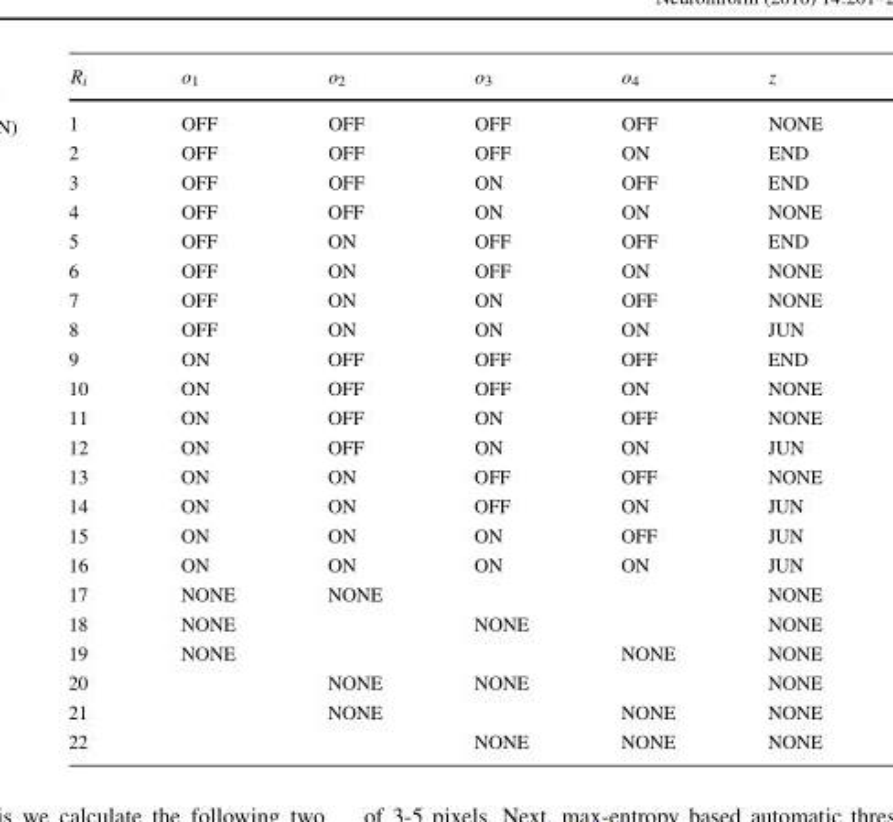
<table><thead><tr><td>R<sub>i</sub></td><td>o<sub>1</sub></td><td>o<sub>2</sub></td><td>o<sub>3</sub></td><td>o<sub>4</sub></td><td>z</td></tr></thead><tbody><tr><td>1</td><td>OFF</td><td>OFF</td><td>OFF</td><td>OFF</td><td>NONE</td></tr><tr><td>2</td><td>OFF</td><td>OFF</td><td>OFF</td><td>ON</td><td>END</td></tr><tr><td>3</td><td>OFF</td><td>OFF</td><td>ON</td><td>OFF</td><td>END</td></tr><tr><td>4</td><td>OFF</td><td>OFF</td><td>ON</td><td>ON</td><td>NONE</td></tr><tr><td>5</td><td>OFF</td><td>ON</td><td>OFF</td><td>OFF</td><td>END</td></tr><tr><td>6</td><td>OFF</td><td>ON</td><td>OFF</td><td>ON</td><td>NONE</td></tr><tr><td>7</td><td>OFF</td><td>ON</td><td>ON</td><td>OFF</td><td>NONE</td></tr><tr><td>8</td><td>OFF</td><td>ON</td><td>ON</td><td>ON</td><td>JUN</td></tr><tr><td>9</td><td>ON</td><td>OFF</td><td>OFF</td><td>OFF</td><td>END</td></tr><tr><td>10</td><td>ON</td><td>OFF</td><td>OFF</td><td>ON</td><td>NONE</td></tr><tr><td>11</td><td>ON</td><td>OFF</td><td>ON</td><td>OFF</td><td>NONE</td></tr><tr><td>12</td><td>ON</td><td>OFF</td><td>ON</td><td>ON</td><td>JUN</td></tr><tr><td>13</td><td>ON</td><td>ON</td><td>OFF</td><td>OFF</td><td>NONE</td></tr><tr><td>14</td><td>ON</td><td>ON</td><td>OFF</td><td>ON</td><td>JUN</td></tr><tr><td>15</td><td>ON</td><td>ON</td><td>ON</td><td>OFF</td><td>JUN</td></tr><tr><td>16</td><td>ON</td><td>ON</td><td>ON</td><td>ON</td><td>JUN</td></tr><tr><td>17</td><td>NONE</td><td>NONE</td><td></td><td></td><td>NONE</td></tr><tr><td>18</td><td>NONE</td><td></td><td>NONE</td><td></td><td>NONE</td></tr><tr><td>19</td><td>NONE</td><td></td><td></td><td>NONE</td><td>NONE</td></tr><tr><td>20</td><td></td><td>NONE</td><td>NONE</td><td></td><td>NONE</td></tr><tr><td>21</td><td></td><td>NONE</td><td></td><td>NONE</td><td>NONE</td></tr><tr><td>22</td><td></td><td></td><td>NONE</td><td>NONE</td><td>NONE</td></tr></tbody></table>